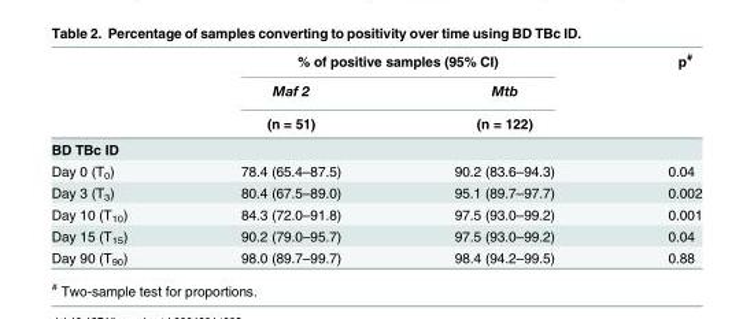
<table><thead><tr><td rowspan="3"></td><td colspan="2">% of positive samples (95% CI)</td><td rowspan="3">p<sup>#</sup></td></tr><tr><td rowspan="2">Maf 2 (n = 51)</td><td rowspan="2">Mtb (n = 122)</td></tr><tr></tr></thead><tbody><tr><td colspan="4">BD TBc ID</td></tr><tr><td>Day 0 (T<sub>0</sub>)</td><td>78.4 (65.4–87.5)</td><td>90.2 (83.6–94.3)</td><td>0.04</td></tr><tr><td>Day 3 (T<sub>3</sub>)</td><td>80.4 (67.5–89.0)</td><td>95.1 (89.7–97.7)</td><td>0.002</td></tr><tr><td>Day 10 (T<sub>10</sub>)</td><td>84.3 (72.0–91.8)</td><td>97.5 (93.0–99.2)</td><td>0.001</td></tr><tr><td>Day 15 (T<sub>15</sub>)</td><td>90.2 (79.0–95.7)</td><td>97.5 (93.0–99.2)</td><td>0.04</td></tr><tr><td>Day 90 (T<sub>90</sub>)</td><td>98.0 (89.7–99.7)</td><td>98.4 (94.2–99.5)</td><td>0.88</td></tr></tbody></table>